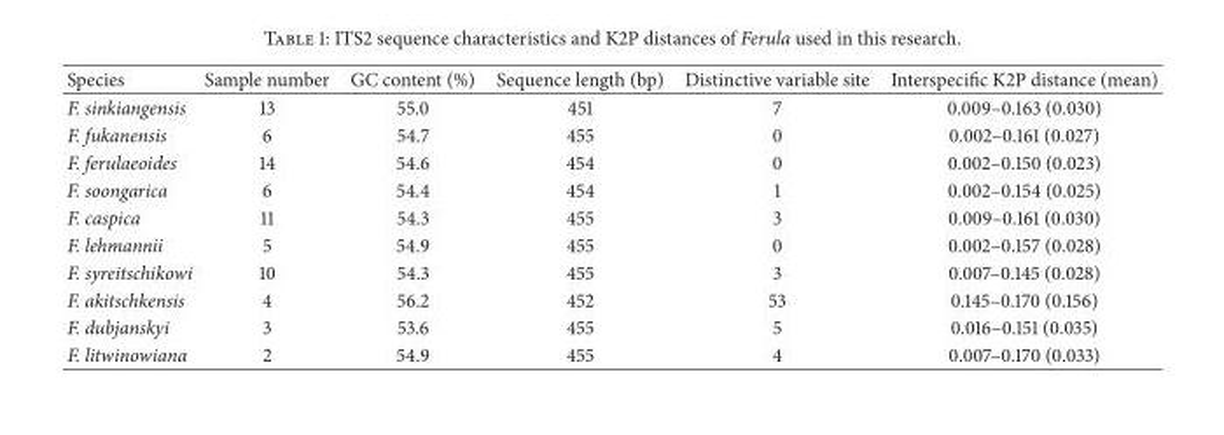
<table><thead><tr><td>Species</td><td>Sample number</td><td>GC content (%)</td><td>Sequence length (bp)</td><td>Distinctive variable site</td><td>Interspecific K2P distance (mean)</td></tr></thead><tbody><tr><td>F. sinkiangensis</td><td>13</td><td>55.0</td><td>451</td><td>7</td><td>0.009–0.163 (0.030)</td></tr><tr><td>F. fukanensis</td><td>6</td><td>54.7</td><td>455</td><td>0</td><td>0.002–0.161 (0.027)</td></tr><tr><td>F. ferulaeoides</td><td>14</td><td>54.6</td><td>454</td><td>0</td><td>0.002–0.150 (0.023)</td></tr><tr><td>F. soongarica</td><td>6</td><td>54.4</td><td>454</td><td>1</td><td>0.002–0.154 (0.025)</td></tr><tr><td>F. caspica</td><td>11</td><td>54.3</td><td>455</td><td>3</td><td>0.009–0.161 (0.030)</td></tr><tr><td>F. lehmannii</td><td>5</td><td>54.9</td><td>455</td><td>0</td><td>0.002–0.157 (0.028)</td></tr><tr><td>F. syreitschikowi</td><td>10</td><td>54.3</td><td>455</td><td>3</td><td>0.007–0.145 (0.028)</td></tr><tr><td>F. akitschkensis</td><td>4</td><td>56.2</td><td>452</td><td>53</td><td>0.145–0.170 (0.156)</td></tr><tr><td>F. dubjanskyi</td><td>3</td><td>53.6</td><td>455</td><td>5</td><td>0.016–0.151 (0.035)</td></tr><tr><td>F. litwinowiana</td><td>2</td><td>54.9</td><td>455</td><td>4</td><td>0.007–0.170 (0.033)</td></tr></tbody></table>